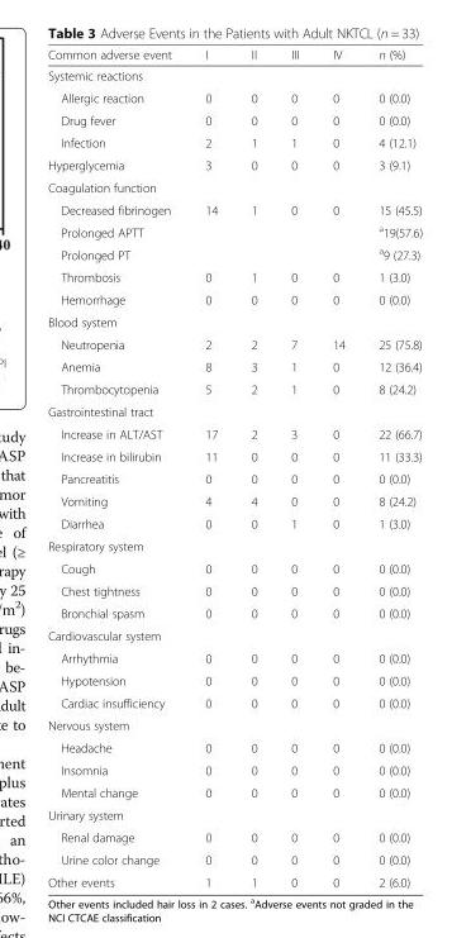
<table><thead><tr><td>Common adverse event</td><td>I</td><td>II</td><td>III</td><td>IV</td><td>n (%)</td></tr></thead><tbody><tr><td colspan="6">Systemic reactions</td></tr><tr><td>Allergic reaction</td><td>0</td><td>0</td><td>0</td><td>0</td><td>0 (0.0)</td></tr><tr><td>Drug fever</td><td>0</td><td>0</td><td>0</td><td>0</td><td>0 (0.0)</td></tr><tr><td>Infection</td><td>2</td><td>1</td><td>1</td><td>0</td><td>4 (12.1)</td></tr><tr><td>Hyperglycemia</td><td>3</td><td>0</td><td>0</td><td>0</td><td>3 (9.1)</td></tr><tr><td colspan="6">Coagulation function</td></tr><tr><td>Decreased fibrinogen</td><td>14</td><td>1</td><td>0</td><td>0</td><td>15 (45.5)</td></tr><tr><td>Prolonged APTT</td><td></td><td></td><td></td><td></td><td><sup>a</sup>19(57.6)</td></tr><tr><td>Prolonged PT</td><td></td><td></td><td></td><td></td><td><sup>a</sup>9 (27.3)</td></tr><tr><td>Thrombosis</td><td>0</td><td>1</td><td>0</td><td>0</td><td>1 (3.0)</td></tr><tr><td>Hemorrhage</td><td>0</td><td>0</td><td>0</td><td>0</td><td>0 (0.0)</td></tr><tr><td colspan="6">Blood system</td></tr><tr><td>Neutropenia</td><td>2</td><td>2</td><td>7</td><td>14</td><td>25 (75.8)</td></tr><tr><td>Anemia</td><td>8</td><td>3</td><td>1</td><td>0</td><td>12 (36.4)</td></tr><tr><td>Thrombocytopenia</td><td>5</td><td>2</td><td>1</td><td>0</td><td>8 (24.2)</td></tr><tr><td colspan="6">Gastrointestinal tract</td></tr><tr><td>Increase in ALT/AST</td><td>17</td><td>2</td><td>3</td><td>0</td><td>22 (66.7)</td></tr><tr><td>Increase in bilirubin</td><td>11</td><td>0</td><td>0</td><td>0</td><td>11 (33.3)</td></tr><tr><td>Pancreatitis</td><td>0</td><td>0</td><td>0</td><td>0</td><td>0 (0.0)</td></tr><tr><td>Vomiting</td><td>4</td><td>4</td><td>0</td><td>0</td><td>8 (24.2)</td></tr><tr><td>Diarrhea</td><td>0</td><td>0</td><td>1</td><td>0</td><td>1 (3.0)</td></tr><tr><td colspan="6">Respiratory system</td></tr><tr><td>Cough</td><td>0</td><td>0</td><td>0</td><td>0</td><td>0 (0.0)</td></tr><tr><td>Chest tightness</td><td>0</td><td>0</td><td>0</td><td>0</td><td>0 (0.0)</td></tr><tr><td>Bronchial spasm</td><td>0</td><td>0</td><td>0</td><td>0</td><td>0 (0.0)</td></tr><tr><td colspan="6">Cardiovascular system</td></tr><tr><td>Arrhythmia</td><td>0</td><td>0</td><td>0</td><td>0</td><td>0 (0.0)</td></tr><tr><td>Hypotension</td><td>0</td><td>0</td><td>0</td><td>0</td><td>0 (0.0)</td></tr><tr><td>Cardiac insufficiency</td><td>0</td><td>0</td><td>0</td><td>0</td><td>0 (0.0)</td></tr><tr><td colspan="6">Nervous system</td></tr><tr><td>Headache</td><td>0</td><td>0</td><td>0</td><td>0</td><td>0 (0.0)</td></tr><tr><td>Insomnia</td><td>0</td><td>0</td><td>0</td><td>0</td><td>0 (0.0)</td></tr><tr><td>Mental change</td><td>0</td><td>0</td><td>0</td><td>0</td><td>0 (0.0)</td></tr><tr><td colspan="6">Urinary system</td></tr><tr><td>Renal damage</td><td>0</td><td>0</td><td>0</td><td>0</td><td>0 (0.0)</td></tr><tr><td>Urine color change</td><td>0</td><td>0</td><td>0</td><td>0</td><td>0 (0.0)</td></tr><tr><td>Other events</td><td>1</td><td>1</td><td>0</td><td>0</td><td>2 (6.0)</td></tr></tbody></table>